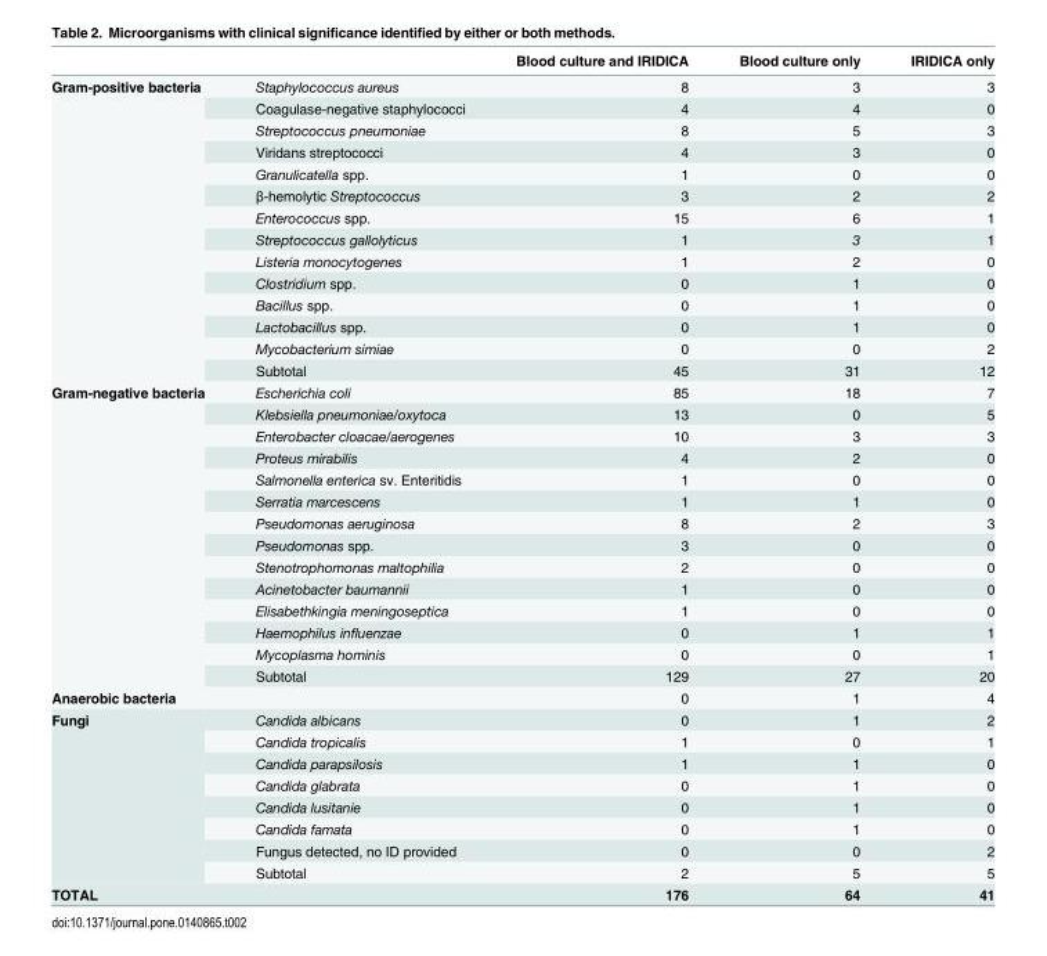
<table><thead><tr><td></td><td></td><td>Blood culture and IRIDICA</td><td>Blood culture only</td><td>IRIDICA only</td></tr></thead><tbody><tr><td rowspan="14">Gram-positive bacteria</td><td>Staphylococcus aureus</td><td>8</td><td>3</td><td>3</td></tr><tr><td>Coagulase-negative staphylococci</td><td>4</td><td>4</td><td>0</td></tr><tr><td>Streptococcus pneumoniae</td><td>8</td><td>5</td><td>3</td></tr><tr><td>Viridans streptococci</td><td>4</td><td>3</td><td>0</td></tr><tr><td>Granulicatella spp.</td><td>1</td><td>0</td><td>0</td></tr><tr><td>β-hemolytic Streptococcus</td><td>3</td><td>2</td><td>2</td></tr><tr><td>Enterococcus spp.</td><td>15</td><td>6</td><td>1</td></tr><tr><td>Streptococcus gallolyticus</td><td>1</td><td>3</td><td>1</td></tr><tr><td>Listeria monocytogenes</td><td>1</td><td>2</td><td>0</td></tr><tr><td>Clostridium spp.</td><td>0</td><td>1</td><td>0</td></tr><tr><td>Bacillus spp.</td><td>0</td><td>1</td><td>0</td></tr><tr><td>Lactobacillus spp.</td><td>0</td><td>1</td><td>0</td></tr><tr><td>Mycobacterium simiae</td><td>0</td><td>0</td><td>2</td></tr><tr><td>Subtotal</td><td>45</td><td>31</td><td>12</td></tr><tr><td rowspan="14">Gram-negative bacteria</td><td>Escherichia coli</td><td>85</td><td>18</td><td>7</td></tr><tr><td>Klebsiella pneumoniae/oxytoca</td><td>13</td><td>0</td><td>5</td></tr><tr><td>Enterobacter cloacae/aerogenes</td><td>10</td><td>3</td><td>3</td></tr><tr><td>Proteus mirabilis</td><td>4</td><td>2</td><td>0</td></tr><tr><td>Salmonella enterica sv. Enteritidis</td><td>1</td><td>0</td><td>0</td></tr><tr><td>Serratia marcescens</td><td>1</td><td>1</td><td>0</td></tr><tr><td>Pseudomonas aeruginosa</td><td>8</td><td>2</td><td>3</td></tr><tr><td>Pseudomonas spp.</td><td>3</td><td>0</td><td>0</td></tr><tr><td>Stenotrophomonas maltophilia</td><td>2</td><td>0</td><td>0</td></tr><tr><td>Acinetobacter baumannii</td><td>1</td><td>0</td><td>0</td></tr><tr><td>Elisabethkingia meningoseptica</td><td>1</td><td>0</td><td>0</td></tr><tr><td>Haemophilus influenzae</td><td>0</td><td>1</td><td>1</td></tr><tr><td>Mycoplasma hominis</td><td>0</td><td>0</td><td>1</td></tr><tr><td>Subtotal</td><td>129</td><td>27</td><td>20</td></tr><tr><td>Anaerobic bacteria</td><td></td><td>0</td><td>1</td><td>4</td></tr><tr><td rowspan="8">Fungi</td><td>Candida albicans</td><td>0</td><td>1</td><td>2</td></tr><tr><td>Candida tropicalis</td><td>1</td><td>0</td><td>1</td></tr><tr><td>Candida parapsilosis</td><td>1</td><td>1</td><td>0</td></tr><tr><td>Candida glabrata</td><td>0</td><td>1</td><td>0</td></tr><tr><td>Candida lusitanie</td><td>0</td><td>1</td><td>0</td></tr><tr><td>Candida famata</td><td>0</td><td>1</td><td>0</td></tr><tr><td>Fungus detected, no ID provided</td><td>0</td><td>0</td><td>2</td></tr><tr><td>Subtotal</td><td>2</td><td>5</td><td>5</td></tr><tr><td>TOTAL</td><td></td><td>176</td><td>64</td><td>41</td></tr></tbody></table>